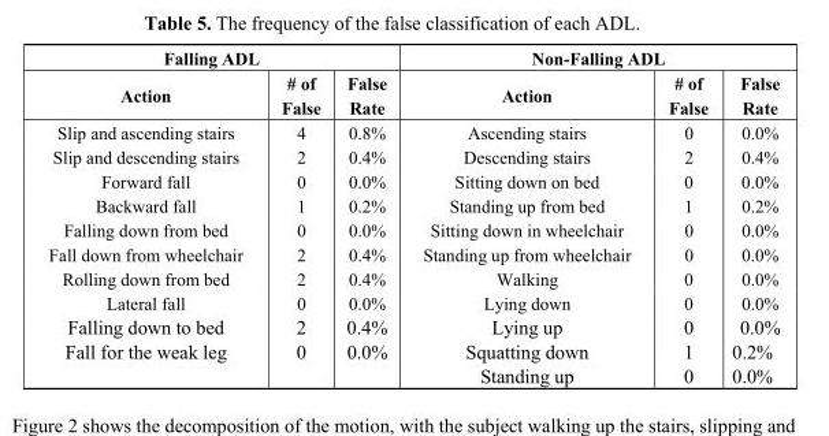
<table><thead><tr><td colspan="3">Falling ADL</td><td colspan="3">Non-Falling ADL</td></tr><tr><td>Action</td><td># of False</td><td>False Rate</td><td>Action</td><td># of False</td><td>False Rate</td></tr></thead><tbody><tr><td>Slip and ascending stairs</td><td>4</td><td>0.8%</td><td>Ascending stairs</td><td>0</td><td>0.0%</td></tr><tr><td>Slip and descending stairs</td><td>2</td><td>0.4%</td><td>Descending stairs</td><td>2</td><td>0.4%</td></tr><tr><td>Forward fall</td><td>0</td><td>0.0%</td><td>Sitting down on bed</td><td>0</td><td>0.0%</td></tr><tr><td>Backward fall</td><td>1</td><td>0.2%</td><td>Standing up from bed</td><td>1</td><td>0.2%</td></tr><tr><td>Falling down from bed</td><td>0</td><td>0.0%</td><td>Sitting down in wheelchair</td><td>0</td><td>0.0%</td></tr><tr><td>Fall down from wheelchair</td><td>2</td><td>0.4%</td><td>Standing up from wheelchair</td><td>0</td><td>0.0%</td></tr><tr><td>Rolling down from bed</td><td>2</td><td>0.4%</td><td>Walking</td><td>0</td><td>0.0%</td></tr><tr><td>Lateral fall</td><td>0</td><td>0.0%</td><td>Lying down</td><td>0</td><td>0.0%</td></tr><tr><td>Falling down to bed</td><td>2</td><td>0.4%</td><td>Lying up</td><td>0</td><td>0.0%</td></tr><tr><td rowspan="2">Fall for the weak leg</td><td>0</td><td>0.0%</td><td>Squatting down</td><td>1</td><td>0.2%</td></tr><tr><td></td><td></td><td>Standing up</td><td>0</td><td>0.0%</td></tr></tbody></table>